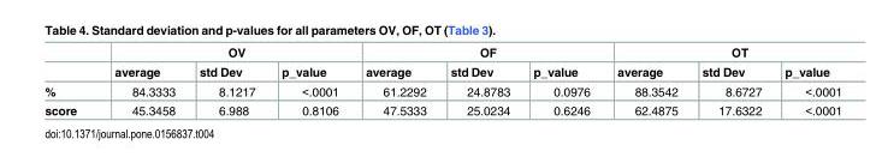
<table><thead><tr><td rowspan="2"></td><td colspan="3">OV</td><td colspan="3">OF</td><td colspan="3">OT</td></tr><tr><td>average</td><td>std Dev</td><td>p_value</td><td>average</td><td>std Dev</td><td>p_value</td><td>average</td><td>std Dev</td><td>p_value</td></tr></thead><tbody><tr><td>%</td><td>84.3333</td><td>8.1217</td><td>&lt;.0001</td><td>61.2292</td><td>24.8783</td><td>0.0976</td><td>88.3542</td><td>8.6727</td><td>&lt;.0001</td></tr><tr><td>score</td><td>45.3458</td><td>6.988</td><td>0.8106</td><td>47.5333</td><td>25.0234</td><td>0.6246</td><td>62.4875</td><td>17.6322</td><td>&lt;.0001</td></tr></tbody></table>